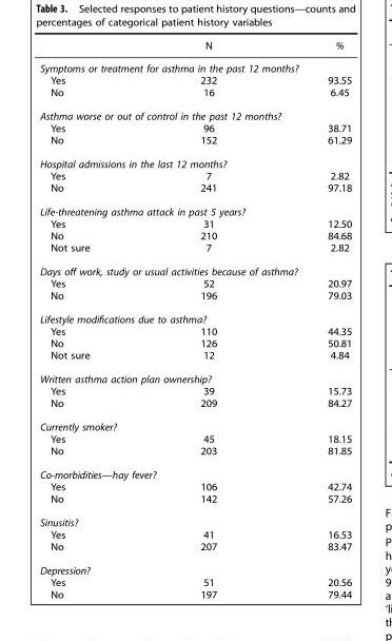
<table><thead><tr><td></td><td>N</td><td>%</td></tr></thead><tbody><tr><td colspan="3">Symptoms or treatment for asthma in the past 12 months?</td></tr><tr><td>Yes</td><td>232</td><td>93.55</td></tr><tr><td>No</td><td>16</td><td>6.45</td></tr><tr><td colspan="3">Asthma worse or out of control in the past 12 months?</td></tr><tr><td>Yes</td><td>96</td><td>38.71</td></tr><tr><td>No</td><td>152</td><td>61.29</td></tr><tr><td colspan="3">Hospital admissions in the last 12 months?</td></tr><tr><td>Yes</td><td>7</td><td>2.82</td></tr><tr><td>No</td><td>241</td><td>97.18</td></tr><tr><td colspan="3">Life-threatening asthma attack in past 5 years?</td></tr><tr><td>Yes</td><td>31</td><td>12.50</td></tr><tr><td>No</td><td>210</td><td>84.68</td></tr><tr><td>Not sure</td><td>7</td><td>2.82</td></tr><tr><td colspan="3">Days off work, study or usual activities because of asthma?</td></tr><tr><td>Yes</td><td>52</td><td>20.97</td></tr><tr><td>No</td><td>196</td><td>79.03</td></tr><tr><td colspan="3">Lifestyle modifications due to asthma?</td></tr><tr><td>Yes</td><td>110</td><td>44.35</td></tr><tr><td>No</td><td>126</td><td>50.81</td></tr><tr><td>Not sure</td><td>12</td><td>4.84</td></tr><tr><td colspan="3">Written asthma action plan ownership?</td></tr><tr><td>Yes</td><td>39</td><td>15.73</td></tr><tr><td>No</td><td>209</td><td>84.27</td></tr><tr><td colspan="3">Currently smoker?</td></tr><tr><td>Yes</td><td>45</td><td>18.15</td></tr><tr><td>No</td><td>203</td><td>81.85</td></tr><tr><td colspan="3">Co-morbidities—hay fever?</td></tr><tr><td>Yes</td><td>106</td><td>42.74</td></tr><tr><td>No</td><td>142</td><td>57.26</td></tr><tr><td colspan="3">Sinusitis?</td></tr><tr><td>Yes</td><td>41</td><td>16.53</td></tr><tr><td>No</td><td>207</td><td>83.47</td></tr><tr><td colspan="3">Depression?</td></tr><tr><td>Yes</td><td>51</td><td>20.56</td></tr><tr><td>No</td><td>197</td><td>79.44</td></tr></tbody></table>